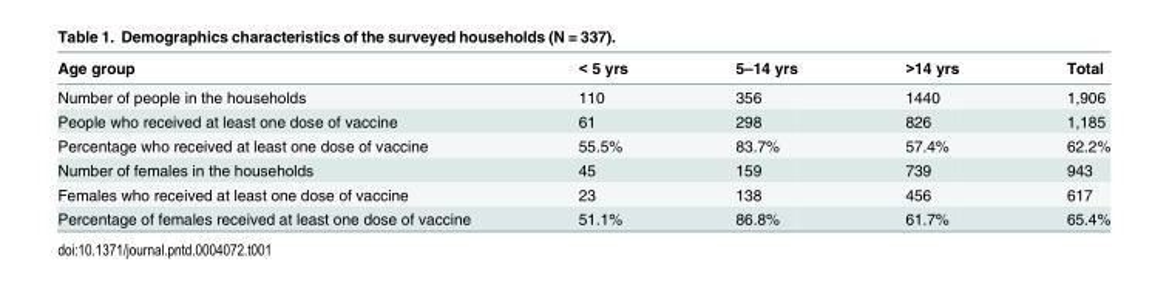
<table><thead><tr><td>Age group</td><td>&lt; 5 yrs</td><td>5–14 yrs</td><td>&gt;14 yrs</td><td>Total</td></tr></thead><tbody><tr><td>Number of people in the households</td><td>110</td><td>356</td><td>1440</td><td>1,906</td></tr><tr><td>People who received at least one dose of vaccine</td><td>61</td><td>298</td><td>826</td><td>1,185</td></tr><tr><td>Percentage who received at least one dose of vaccine</td><td>55.5%</td><td>83.7%</td><td>57.4%</td><td>62.2%</td></tr><tr><td>Number of females in the households</td><td>45</td><td>159</td><td>739</td><td>943</td></tr><tr><td>Females who received at least one dose of vaccine</td><td>23</td><td>138</td><td>456</td><td>617</td></tr><tr><td>Percentage of females received at least one dose of vaccine</td><td>51.1%</td><td>86.8%</td><td>61.7%</td><td>65.4%</td></tr></tbody></table>